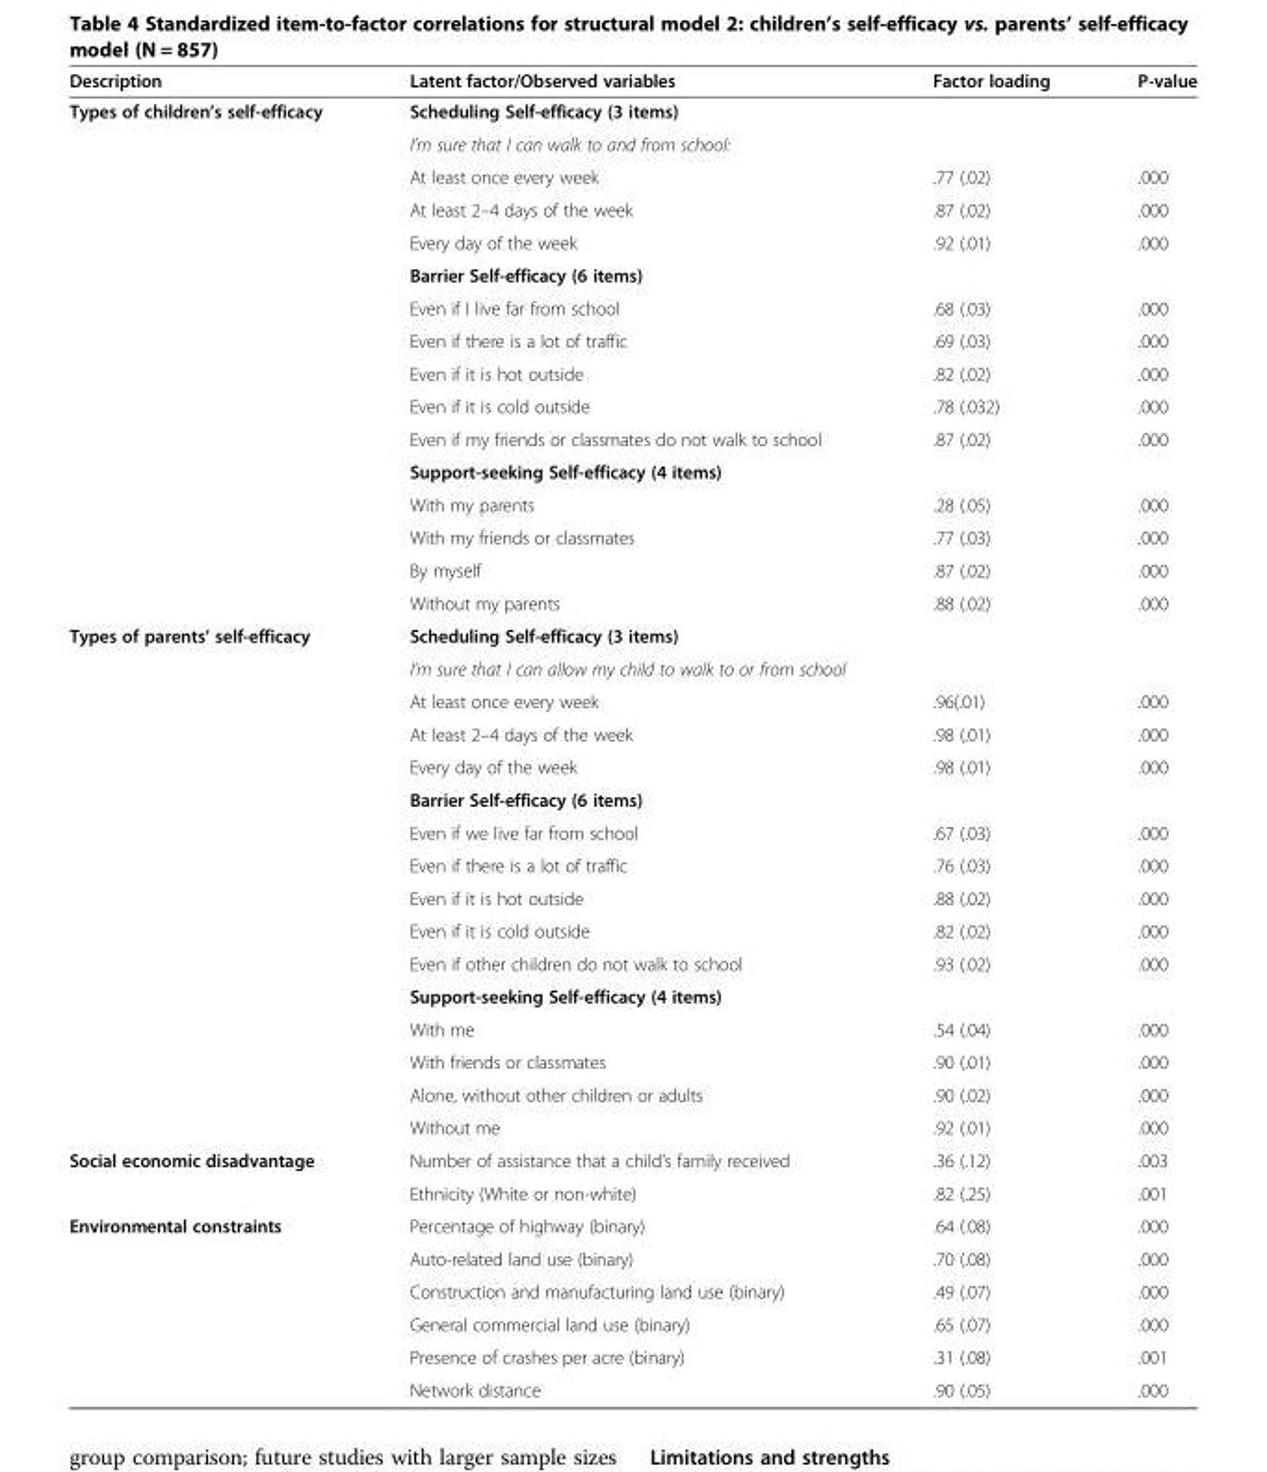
<table><thead><tr><td>Description</td><td>Latent factor/Observed variables</td><td>Factor loading</td><td>P-value</td></tr></thead><tbody><tr><td rowspan="16">Types of children’s self-efficacy</td><td>Scheduling Self-efficacy (3 items)</td><td></td><td></td></tr><tr><td>I’m sure that I can walk to and from school:</td><td></td><td></td></tr><tr><td>At least once every week</td><td>.77 (.02)</td><td>.000</td></tr><tr><td>At least 2–4 days of the week</td><td>.87 (.02)</td><td>.000</td></tr><tr><td>Every day of the week</td><td>.92 (.01)</td><td>.000</td></tr><tr><td>Barrier Self-efficacy (6 items)</td><td></td><td></td></tr><tr><td>Even if I live far from school</td><td>.68 (.03)</td><td>.000</td></tr><tr><td>Even if there is a lot of traffic</td><td>.69 (.03)</td><td>.000</td></tr><tr><td>Even if it is hot outside</td><td>.82 (.02)</td><td>.000</td></tr><tr><td>Even if it is cold outside</td><td>.78 (.032)</td><td>.000</td></tr><tr><td>Even if my friends or classmates do not walk to school</td><td>.87 (.02)</td><td>.000</td></tr><tr><td>Support-seeking Self-efficacy (4 items)</td><td></td><td></td></tr><tr><td>With my parents</td><td>.28 (.05)</td><td>.000</td></tr><tr><td>With my friends or classmates</td><td>.77 (.03)</td><td>.000</td></tr><tr><td>By myself</td><td>.87 (.02)</td><td>.000</td></tr><tr><td>Without my parents</td><td>.88 (.02)</td><td>.000</td></tr><tr><td rowspan="16">Types of parents’ self-efficacy</td><td>Scheduling Self-efficacy (3 items)</td><td></td><td></td></tr><tr><td>I’m sure that I can allow my child to walk to or from school</td><td></td><td></td></tr><tr><td>At least once every week</td><td>.96(.01)</td><td>.000</td></tr><tr><td>At least 2–4 days of the week</td><td>.98 (.01)</td><td>.000</td></tr><tr><td>Every day of the week</td><td>.98 (.01)</td><td>.000</td></tr><tr><td>Barrier Self-efficacy (6 items)</td><td></td><td></td></tr><tr><td>Even if we live far from school</td><td>.67 (.03)</td><td>.000</td></tr><tr><td>Even if there is a lot of traffic</td><td>.76 (.03)</td><td>.000</td></tr><tr><td>Even if it is hot outside</td><td>.88 (.02)</td><td>.000</td></tr><tr><td>Even if it is cold outside</td><td>.82 (.02)</td><td>.000</td></tr><tr><td>Even if other children do not walk to school</td><td>.93 (.02)</td><td>.000</td></tr><tr><td>Support-seeking Self-efficacy (4 items)</td><td></td><td></td></tr><tr><td>With me</td><td>.54 (.04)</td><td>.000</td></tr><tr><td>With friends or classmates</td><td>.90 (.01)</td><td>.000</td></tr><tr><td>Alone, without other children or adults</td><td>.90 (.02)</td><td>.000</td></tr><tr><td>Without me</td><td>.92 (.01)</td><td>.000</td></tr><tr><td rowspan="2">Social economic disadvantage</td><td>Number of assistance that a child’s family received</td><td>.36 (.12)</td><td>.003</td></tr><tr><td>Ethnicity (White or non-white)</td><td>.82 (.25)</td><td>.001</td></tr><tr><td rowspan="6">Environmental constraints</td><td>Percentage of highway (binary)</td><td>.64 (.08)</td><td>.000</td></tr><tr><td>Auto-related land use (binary)</td><td>.70 (.08)</td><td>.000</td></tr><tr><td>Construction and manufacturing land use (binary)</td><td>.49 (.07)</td><td>.000</td></tr><tr><td>General commercial land use (binary)</td><td>.65 (.07)</td><td>.000</td></tr><tr><td>Presence of crashes per acre (binary)</td><td>.31 (.08)</td><td>.001</td></tr><tr><td>Network distance</td><td>.90 (.05)</td><td>.000</td></tr></tbody></table>